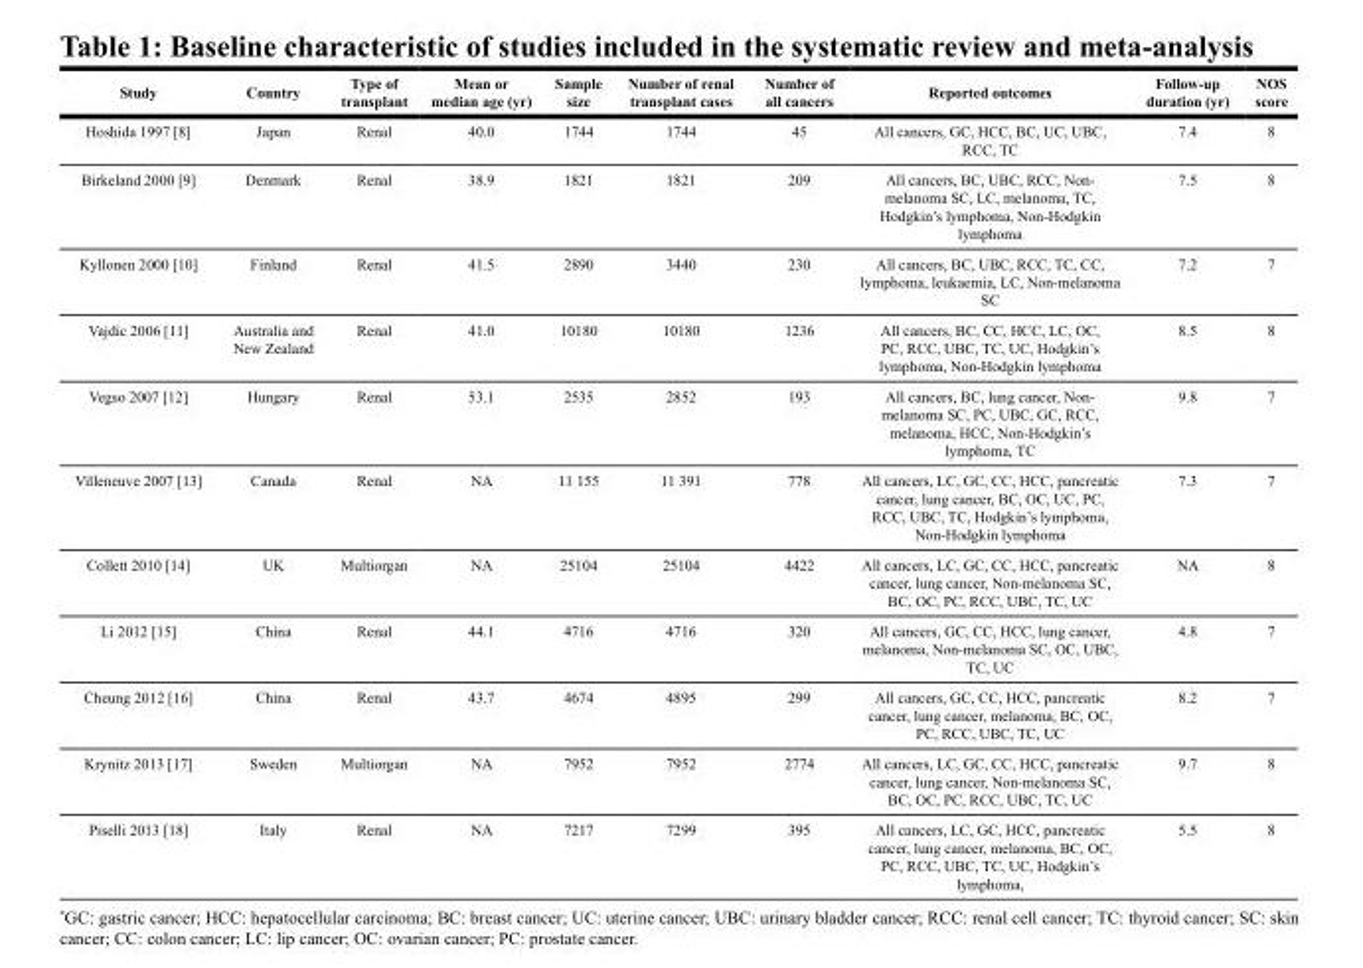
<table><thead><tr><td>Study</td><td>Country</td><td>Type of transplant</td><td>Mean or median age (yr)</td><td>Sample size</td><td>Number of renal transplant cases</td><td>Number of all cancers</td><td>Reported outcomes</td><td>Follow-up duration (yr)</td><td>NOS score</td></tr></thead><tbody><tr><td>Hoshida 1997 [8]</td><td>Japan</td><td>Renal</td><td>40.0</td><td>1744</td><td>1744</td><td>45</td><td>All cancers, GC, HCC, BC, UC, UBC, RCC, TC</td><td>7.4</td><td>8</td></tr><tr><td>Birkeland 2000 [9]</td><td>Denmark</td><td>Renal</td><td>38.9</td><td>1821</td><td>1821</td><td>209</td><td>All cancers, BC, UBC, RCC, Non- melanoma SC, LC, melanoma, TC, Hodgkin’s lymphoma, Non-Hodgkin lymphoma</td><td>7.5</td><td>8</td></tr><tr><td>Kyllonen 2000 [10]</td><td>Finland</td><td>Renal</td><td>41.5</td><td>2890</td><td>3440</td><td>230</td><td>All cancers, BC, UBC, RCC, TC, CC, lymphoma, leukaemia, LC, Non-melanoma SC</td><td>7.2</td><td>7</td></tr><tr><td>Vajdic 2006 [11]</td><td>Australia and New Zealand</td><td>Renal</td><td>41.0</td><td>10180</td><td>10180</td><td>1236</td><td>All cancers, BC, CC, HCC, LC, OC, PC, RCC, UBC, TC, UC, Hodgkin’s lymphoma, Non-Hodgkin lymphoma</td><td>8.5</td><td>8</td></tr><tr><td>Vegso 2007 [12]</td><td>Hungary</td><td>Renal</td><td>53.1</td><td>2535</td><td>2852</td><td>193</td><td>All cancers, BC, lung cancer, Non- melanoma SC, PC, UBC, GC, RCC, melanoma, HCC, Non-Hodgkin’s lymphoma, TC</td><td>9.8</td><td>7</td></tr><tr><td>Villeneuve 2007 [13]</td><td>Canada</td><td>Renal</td><td>NA</td><td>11 155</td><td>11 391</td><td>778</td><td>All cancers, LC, GC, CC, HCC, pancreatic cancer, lung cancer, BC, OC, UC, PC, RCC, UBC, TC, Hodgkin’s lymphoma, Non-Hodgkin lymphoma</td><td>7.3</td><td>7</td></tr><tr><td>Collett 2010 [14]</td><td>UK</td><td>Multiorgan</td><td>NA</td><td>25104</td><td>25104</td><td>4422</td><td>All cancers, LC, GC, CC, HCC, pancreatic cancer, lung cancer, Non-melanoma SC, BC, OC, PC, RCC, UBC, TC, UC</td><td>NA</td><td>8</td></tr><tr><td>Li 2012 [15]</td><td>China</td><td>Renal</td><td>44.1</td><td>4716</td><td>4716</td><td>320</td><td>All cancers, GC, CC, HCC, lung cancer, melanoma, Non-melanoma SC, OC, UBC, TC, UC</td><td>4.8</td><td>7</td></tr><tr><td>Cheung 2012 [16]</td><td>China</td><td>Renal</td><td>43.7</td><td>4674</td><td>4895</td><td>299</td><td>All cancers, GC, CC, HCC, pancreatic cancer, lung cancer, melanoma, BC, OC, PC, RCC, UBC, TC, UC</td><td>8.2</td><td>7</td></tr><tr><td>Krynitz 2013 [17]</td><td>Sweden</td><td>Multiorgan</td><td>NA</td><td>7952</td><td>7952</td><td>2774</td><td>All cancers, LC, GC, CC, HCC, pancreatic cancer, lung cancer, Non-melanoma SC, BC, OC, PC, RCC, UBC, TC, UC</td><td>9.7</td><td>8</td></tr><tr><td>Piselli 2013 [18]</td><td>Italy</td><td>Renal</td><td>NA</td><td>7217</td><td>7299</td><td>395</td><td>All cancers, LC, GC, HCC, pancreatic cancer, lung cancer, melanoma, BC, OC, PC, RCC, UBC, TC, UC, Hodgkin’s lymphoma,</td><td>5.5</td><td>8</td></tr></tbody></table>